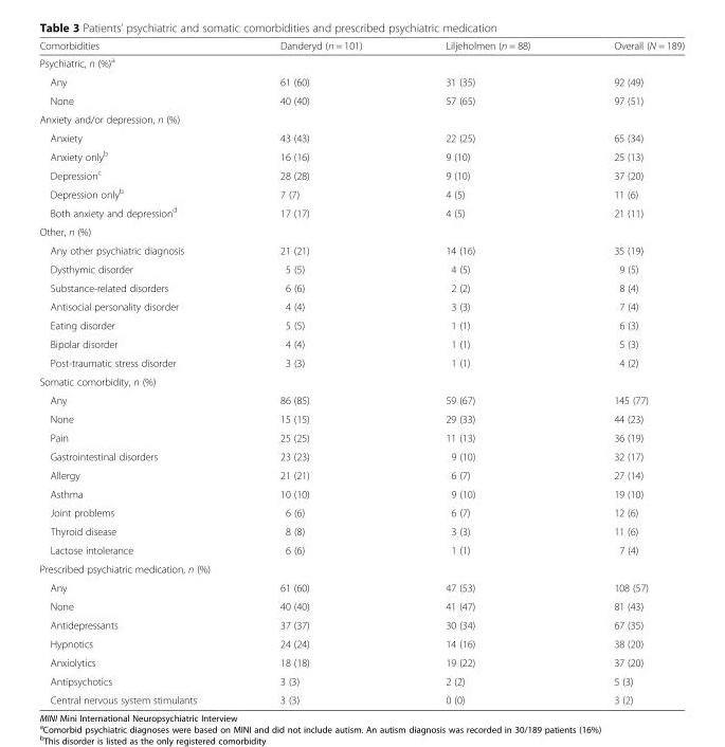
<table><thead><tr><td>Comorbidities</td><td>Danderyd (n = 101)</td><td>Liljeholmen (n = 88)</td><td>Overall (N = 189)</td></tr></thead><tbody><tr><td colspan="4">Psychiatric, n (%)<sup>a</sup></td></tr><tr><td>Any</td><td>61 (60)</td><td>31 (35)</td><td>92 (49)</td></tr><tr><td>None</td><td>40 (40)</td><td>57 (65)</td><td>97 (51)</td></tr><tr><td colspan="4">Anxiety and/or depression, n (%)</td></tr><tr><td>Anxiety</td><td>43 (43)</td><td>22 (25)</td><td>65 (34)</td></tr><tr><td>Anxiety only<sup>b</sup></td><td>16 (16)</td><td>9 (10)</td><td>25 (13)</td></tr><tr><td>Depression<sup>c</sup></td><td>28 (28)</td><td>9 (10)</td><td>37 (20)</td></tr><tr><td>Depression only<sup>b</sup></td><td>7 (7)</td><td>4 (5)</td><td>11 (6)</td></tr><tr><td>Both anxiety and depression<sup>d</sup></td><td>17 (17)</td><td>4 (5)</td><td>21 (11)</td></tr><tr><td colspan="4">Other, n (%)</td></tr><tr><td>Any other psychiatric diagnosis</td><td>21 (21)</td><td>14 (16)</td><td>35 (19)</td></tr><tr><td>Dysthymic disorder</td><td>5 (5)</td><td>4 (5)</td><td>9 (5)</td></tr><tr><td>Substance-related disorders</td><td>6 (6)</td><td>2 (2)</td><td>8 (4)</td></tr><tr><td>Antisocial personality disorder</td><td>4 (4)</td><td>3 (3)</td><td>7 (4)</td></tr><tr><td>Eating disorder</td><td>5 (5)</td><td>1 (1)</td><td>6 (3)</td></tr><tr><td>Bipolar disorder</td><td>4 (4)</td><td>1 (1)</td><td>5 (3)</td></tr><tr><td>Post-traumatic stress disorder</td><td>3 (3)</td><td>1 (1)</td><td>4 (2)</td></tr><tr><td colspan="4">Somatic comorbidity, n (%)</td></tr><tr><td>Any</td><td>86 (85)</td><td>59 (67)</td><td>145 (77)</td></tr><tr><td>None</td><td>15 (15)</td><td>29 (33)</td><td>44 (23)</td></tr><tr><td>Pain</td><td>25 (25)</td><td>11 (13)</td><td>36 (19)</td></tr><tr><td>Gastrointestinal disorders</td><td>23 (23)</td><td>9 (10)</td><td>32 (17)</td></tr><tr><td>Allergy</td><td>21 (21)</td><td>6 (7)</td><td>27 (14)</td></tr><tr><td>Asthma</td><td>10 (10)</td><td>9 (10)</td><td>19 (10)</td></tr><tr><td>Joint problems</td><td>6 (6)</td><td>6 (7)</td><td>12 (6)</td></tr><tr><td>Thyroid disease</td><td>8 (8)</td><td>3 (3)</td><td>11 (6)</td></tr><tr><td>Lactose intolerance</td><td>6 (6)</td><td>1 (1)</td><td>7 (4)</td></tr><tr><td colspan="4">Prescribed psychiatric medication, n (%)</td></tr><tr><td>Any</td><td>61 (60)</td><td>47 (53)</td><td>108 (57)</td></tr><tr><td>None</td><td>40 (40)</td><td>41 (47)</td><td>81 (43)</td></tr><tr><td>Antidepressants</td><td>37 (37)</td><td>30 (34)</td><td>67 (35)</td></tr><tr><td>Hypnotics</td><td>24 (24)</td><td>14 (16)</td><td>38 (20)</td></tr><tr><td>Anxiolytics</td><td>18 (18)</td><td>19 (22)</td><td>37 (20)</td></tr><tr><td>Antipsychotics</td><td>3 (3)</td><td>2 (2)</td><td>5 (3)</td></tr><tr><td>Central nervous system stimulants</td><td>3 (3)</td><td>0 (0)</td><td>3 (2)</td></tr></tbody></table>